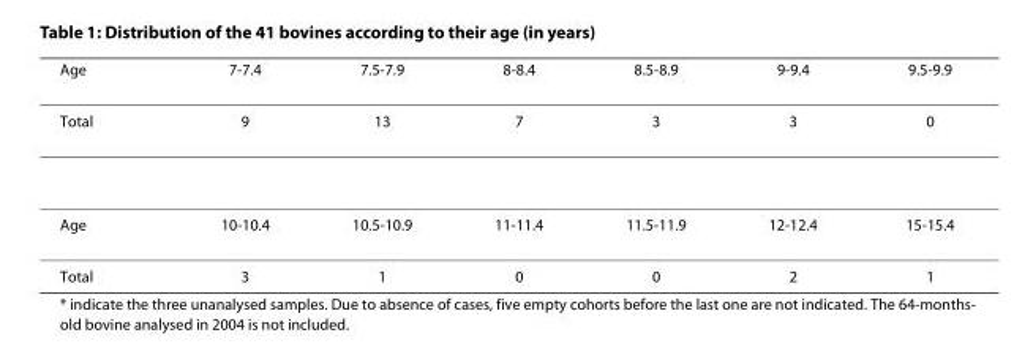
<table><thead><tr><td>Age</td><td>7-7.4</td><td>7.5-7.9</td><td>8-8.4</td><td>8.5-8.9</td><td>9-9.4</td><td>9.5-9.9</td></tr></thead><tbody><tr><td>Total</td><td>9</td><td>13</td><td>7</td><td>3</td><td>3</td><td>0</td></tr><tr><td>Age</td><td>10-10.4</td><td>10.5-10.9</td><td>11-11.4</td><td>11.5-11.9</td><td>12-12.4</td><td>15-15.4</td></tr><tr><td>Total</td><td>3</td><td>1</td><td>0</td><td>0</td><td>2</td><td>1</td></tr></tbody></table>